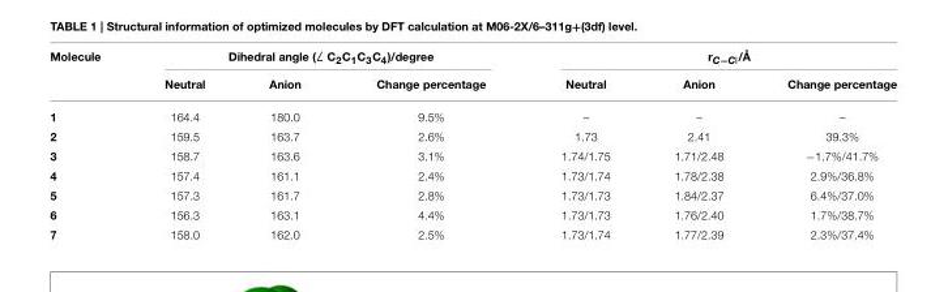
<table><thead><tr><td rowspan="2">Molecule</td><td colspan="3">Dihedral angle (̸ C2C1C3C4)/degree</td><td colspan="3">r<sub>C−Cl</sub>/Å</td></tr><tr><td>Neutral</td><td>Anion</td><td>Change percentage</td><td>Neutral</td><td>Anion</td><td>Change percentage</td></tr></thead><tbody><tr><td>1</td><td>164.4</td><td>180.0</td><td>9.5%</td><td>–</td><td>–</td><td>–</td></tr><tr><td>2</td><td>159.5</td><td>163.7</td><td>2.6%</td><td>1.73</td><td>2.41</td><td>39.3%</td></tr><tr><td>3</td><td>158.7</td><td>163.6</td><td>3.1%</td><td>1.74/1.75</td><td>1.71/2.48</td><td>−1.7%/41.7%</td></tr><tr><td>4</td><td>157.4</td><td>161.1</td><td>2.4%</td><td>1.73/1.74</td><td>1.78/2.38</td><td>2.9%/36.8%</td></tr><tr><td>5</td><td>157.3</td><td>161.7</td><td>2.8%</td><td>1.73/1.73</td><td>1.84/2.37</td><td>6.4%/37.0%</td></tr><tr><td>6</td><td>156.3</td><td>163.1</td><td>4.4%</td><td>1.73/1.73</td><td>1.76/2.40</td><td>1.7%/38.7%</td></tr><tr><td>7</td><td>158.0</td><td>162.0</td><td>2.5%</td><td>1.73/1.74</td><td>1.77/2.39</td><td>2.3%/37.4%</td></tr></tbody></table>